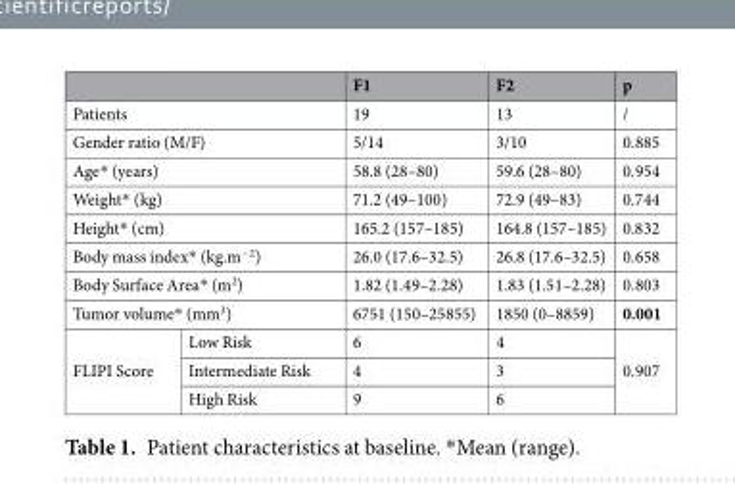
<table><thead><tr><td></td><td></td><td>F1</td><td>F2</td><td>p</td></tr></thead><tbody><tr><td colspan="2">Patients</td><td>19</td><td>13</td><td>/</td></tr><tr><td colspan="2">Gender ratio (M/F)</td><td>5/14</td><td>3/10</td><td>0.885</td></tr><tr><td colspan="2">Age* (years)</td><td>58.8 (28–80)</td><td>59.6 (28–80)</td><td>0.954</td></tr><tr><td colspan="2">Weight* (kg)</td><td>71.2 (49–100)</td><td>72.9 (49–83)</td><td>0.744</td></tr><tr><td colspan="2">Height* (cm)</td><td>165.2 (157–185)</td><td>164.8 (157–185)</td><td>0.832</td></tr><tr><td colspan="2">Body mass index* (kg.m<sup>−2</sup>)</td><td>26.0 (17.6–32.5)</td><td>26.8 (17.6–32.5)</td><td>0.658</td></tr><tr><td colspan="2">Body Surface Area* (m<sup>2</sup>)</td><td>1.82 (1.49–2.28)</td><td>1.83 (1.51–2.28)</td><td>0.803</td></tr><tr><td colspan="2">Tumor volume* (mm<sup>3</sup>)</td><td>6751 (150–25855)</td><td>1850 (0–8859)</td><td>0.001</td></tr><tr><td rowspan="3">FLIPI Score</td><td>Low Risk</td><td>6</td><td>4</td><td rowspan="3">0.907</td></tr><tr><td>Intermediate Risk</td><td>4</td><td>3</td></tr><tr><td>High Risk</td><td>9</td><td>6</td></tr></tbody></table>